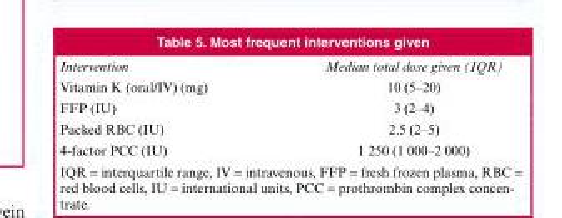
<table><thead><tr><td>Intervention</td><td>Median total dose given (IQR)</td></tr></thead><tbody><tr><td>Vitamin K (oral/IV) (mg)</td><td>10 (5–20)</td></tr><tr><td>FFP (IU)</td><td>3 (2–4)</td></tr><tr><td>Packed RBC (IU)</td><td>2.5 (2–5)</td></tr><tr><td>4-factor PCC (IU)</td><td>1 250 (1 000–2 000)</td></tr></tbody></table>